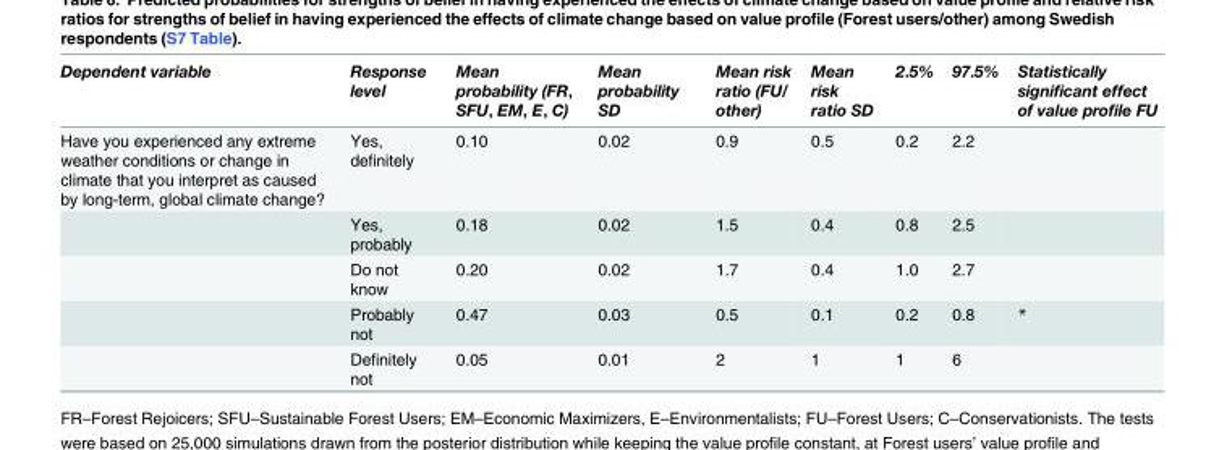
<table><thead><tr><td>Dependent variable</td><td>Response level</td><td>Mean probability (FR, SFU, EM, E, C)</td><td>Mean probability SD</td><td>Mean risk ratio (FU/ other)</td><td>Mean risk ratio SD</td><td>2.5%</td><td>97.5%</td><td>Statistically significant effect of value profile FU</td></tr></thead><tbody><tr><td rowspan="5">Have you experienced any extreme weather conditions or change in climate that you interpret as caused by long-term, global climate change?</td><td>Yes, definitely</td><td>0.10</td><td>0.02</td><td>0.9</td><td>0.5</td><td>0.2</td><td>2.2</td><td></td></tr><tr><td>Yes, probably</td><td>0.18</td><td>0.02</td><td>1.5</td><td>0.4</td><td>0.8</td><td>2.5</td><td></td></tr><tr><td>Do not know</td><td>0.20</td><td>0.02</td><td>1.7</td><td>0.4</td><td>1.0</td><td>2.7</td><td></td></tr><tr><td>Probably not</td><td>0.47</td><td>0.03</td><td>0.5</td><td>0.1</td><td>0.2</td><td>0.8</td><td>*</td></tr><tr><td>Definitely not</td><td>0.05</td><td>0.01</td><td>2</td><td>1</td><td>1</td><td>6</td><td></td></tr></tbody></table>